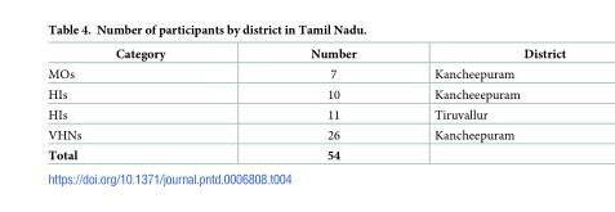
<table><thead><tr><td>Category</td><td>Number</td><td>District</td></tr></thead><tbody><tr><td>MOs</td><td>7</td><td>Kancheepuram</td></tr><tr><td>HIs</td><td>10</td><td>Kancheeepuram</td></tr><tr><td>HIs</td><td>11</td><td>Tiruvallur</td></tr><tr><td>VHNs</td><td>26</td><td>Kancheepuram</td></tr><tr><td>Total</td><td>54</td><td></td></tr></tbody></table>